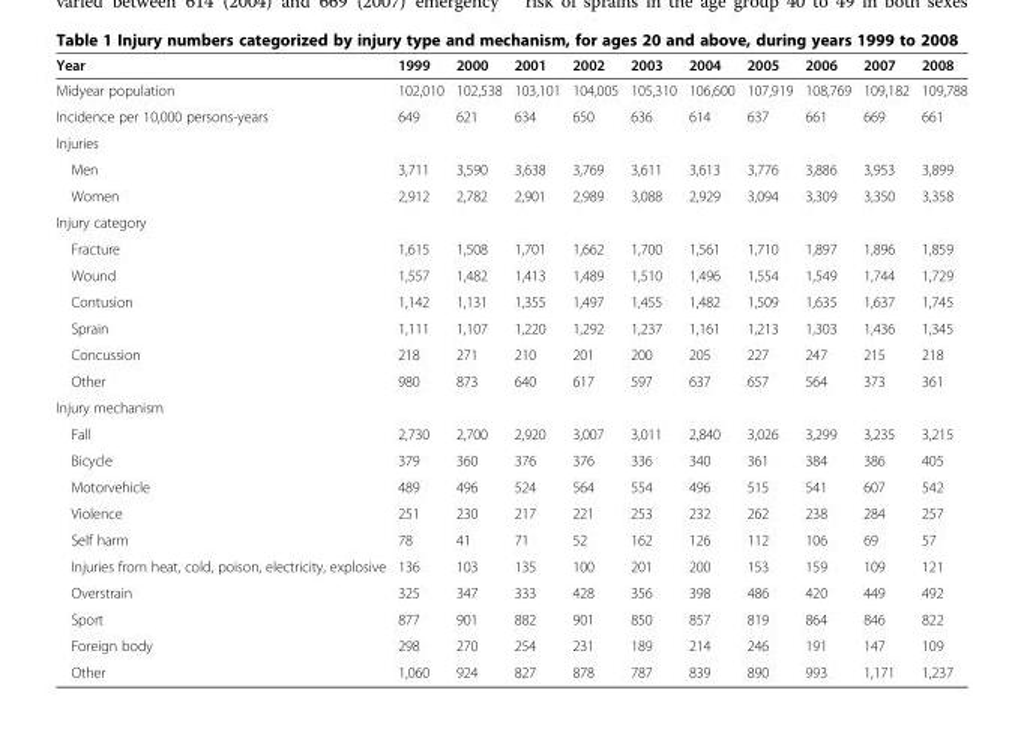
<table><thead><tr><td>Year</td><td>1999</td><td>2000</td><td>2001</td><td>2002</td><td>2003</td><td>2004</td><td>2005</td><td>2006</td><td>2007</td><td>2008</td></tr></thead><tbody><tr><td>Midyear population</td><td>102,010</td><td>102,538</td><td>103,101</td><td>104,005</td><td>105,310</td><td>106,600</td><td>107,919</td><td>108,769</td><td>109,182</td><td>109,788</td></tr><tr><td>Incidence per 10,000 persons-years</td><td>649</td><td>621</td><td>634</td><td>650</td><td>636</td><td>614</td><td>637</td><td>661</td><td>669</td><td>661</td></tr><tr><td colspan="11">Injuries</td></tr><tr><td>Men</td><td>3,711</td><td>3,590</td><td>3,638</td><td>3,769</td><td>3,611</td><td>3,613</td><td>3,776</td><td>3,886</td><td>3,953</td><td>3,899</td></tr><tr><td>Women</td><td>2,912</td><td>2,782</td><td>2,901</td><td>2,989</td><td>3,088</td><td>2,929</td><td>3,094</td><td>3,309</td><td>3,350</td><td>3,358</td></tr><tr><td colspan="11">Injury category</td></tr><tr><td>Fracture</td><td>1,615</td><td>1,508</td><td>1,701</td><td>1,662</td><td>1,700</td><td>1,561</td><td>1,710</td><td>1,897</td><td>1,896</td><td>1,859</td></tr><tr><td>Wound</td><td>1,557</td><td>1,482</td><td>1,413</td><td>1,489</td><td>1,510</td><td>1,496</td><td>1,554</td><td>1,549</td><td>1,744</td><td>1,729</td></tr><tr><td>Contusion</td><td>1,142</td><td>1,131</td><td>1,355</td><td>1,497</td><td>1,455</td><td>1,482</td><td>1,509</td><td>1,635</td><td>1,637</td><td>1,745</td></tr><tr><td>Sprain</td><td>1,111</td><td>1,107</td><td>1,220</td><td>1,292</td><td>1,237</td><td>1,161</td><td>1,213</td><td>1,303</td><td>1,436</td><td>1,345</td></tr><tr><td>Concussion</td><td>218</td><td>271</td><td>210</td><td>201</td><td>200</td><td>205</td><td>227</td><td>247</td><td>215</td><td>218</td></tr><tr><td>Other</td><td>980</td><td>873</td><td>640</td><td>617</td><td>597</td><td>637</td><td>657</td><td>564</td><td>373</td><td>361</td></tr><tr><td colspan="11">Injury mechanism</td></tr><tr><td>Fall</td><td>2,730</td><td>2,700</td><td>2,920</td><td>3,007</td><td>3,011</td><td>2,840</td><td>3,026</td><td>3,299</td><td>3,235</td><td>3,215</td></tr><tr><td>Bicycle</td><td>379</td><td>360</td><td>376</td><td>376</td><td>336</td><td>340</td><td>361</td><td>384</td><td>386</td><td>405</td></tr><tr><td>Motorvehicle</td><td>489</td><td>496</td><td>524</td><td>564</td><td>554</td><td>496</td><td>515</td><td>541</td><td>607</td><td>542</td></tr><tr><td>Violence</td><td>251</td><td>230</td><td>217</td><td>221</td><td>253</td><td>232</td><td>262</td><td>238</td><td>284</td><td>257</td></tr><tr><td>Self harm</td><td>78</td><td>41</td><td>71</td><td>52</td><td>162</td><td>126</td><td>112</td><td>106</td><td>69</td><td>57</td></tr><tr><td>Injuries from heat, cold, poison, electricity, explosive</td><td>136</td><td>103</td><td>135</td><td>100</td><td>201</td><td>200</td><td>153</td><td>159</td><td>109</td><td>121</td></tr><tr><td>Overstrain</td><td>325</td><td>347</td><td>333</td><td>428</td><td>356</td><td>398</td><td>486</td><td>420</td><td>449</td><td>492</td></tr><tr><td>Sport</td><td>877</td><td>901</td><td>882</td><td>901</td><td>850</td><td>857</td><td>819</td><td>864</td><td>846</td><td>822</td></tr><tr><td>Foreign body</td><td>298</td><td>270</td><td>254</td><td>231</td><td>189</td><td>214</td><td>246</td><td>191</td><td>147</td><td>109</td></tr><tr><td>Other</td><td>1,060</td><td>924</td><td>827</td><td>878</td><td>787</td><td>839</td><td>890</td><td>993</td><td>1,171</td><td>1,237</td></tr></tbody></table>